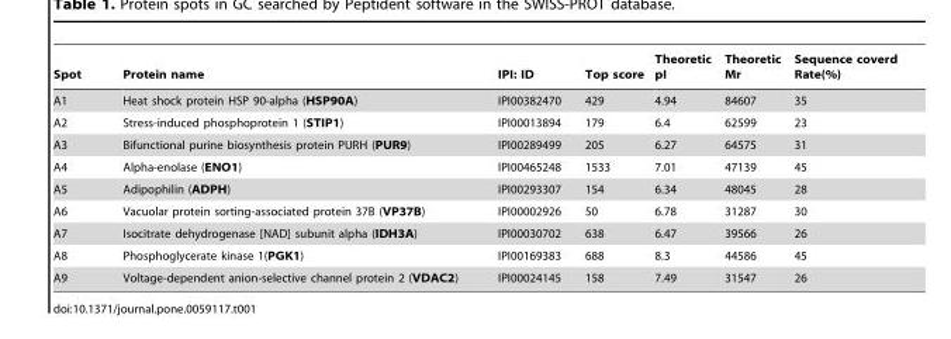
<table><thead><tr><td>Spot</td><td>Protein name</td><td>IPI: ID</td><td>Top score</td><td>Theoretic pI</td><td>Theoretic Mr</td><td>Sequence coverd Rate(%)</td></tr></thead><tbody><tr><td>A1</td><td>Heat shock protein HSP 90-alpha (HSP90A)</td><td>IPI00382470</td><td>429</td><td>4.94</td><td>84607</td><td>35</td></tr><tr><td>A2</td><td>Stress-induced phosphoprotein 1 (STIP1)</td><td>IPI00013894</td><td>179</td><td>6.4</td><td>62599</td><td>23</td></tr><tr><td>A3</td><td>Bifunctional purine biosynthesis protein PURH (PUR9)</td><td>IPI00289499</td><td>205</td><td>6.27</td><td>64575</td><td>31</td></tr><tr><td>A4</td><td>Alpha-enolase (ENO1)</td><td>IPI00465248</td><td>1533</td><td>7.01</td><td>47139</td><td>45</td></tr><tr><td>A5</td><td>Adipophilin (ADPH)</td><td>IPI00293307</td><td>154</td><td>6.34</td><td>48045</td><td>28</td></tr><tr><td>A6</td><td>Vacuolar protein sorting-associated protein 37B (VP37B)</td><td>IPI00002926</td><td>50</td><td>6.78</td><td>31287</td><td>30</td></tr><tr><td>A7</td><td>Isocitrate dehydrogenase [NAD] subunit alpha (IDH3A)</td><td>IPI00030702</td><td>638</td><td>6.47</td><td>39566</td><td>26</td></tr><tr><td>A8</td><td>Phosphoglycerate kinase 1(PGK1)</td><td>IPI00169383</td><td>688</td><td>8.3</td><td>44586</td><td>45</td></tr><tr><td>A9</td><td>Voltage-dependent anion-selective channel protein 2 (VDAC2)</td><td>IPI00024145</td><td>158</td><td>7.49</td><td>31547</td><td>26</td></tr></tbody></table>